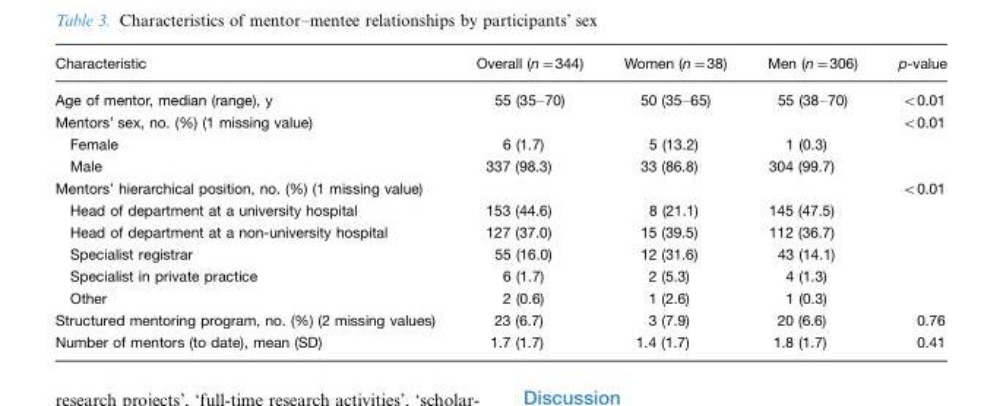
<table><thead><tr><td>Characteristic</td><td>Overall (n=344)</td><td>Women (n=38)</td><td>Men (n=306)</td><td>p-value</td></tr></thead><tbody><tr><td>Age of mentor, median (range), y</td><td>55 (35–70)</td><td>50 (35–65)</td><td>55 (38–70)</td><td>&lt;0.01</td></tr><tr><td>Mentors’ sex, no. (%) (1 missing value)</td><td></td><td></td><td></td><td>&lt;0.01</td></tr><tr><td>Female</td><td>6 (1.7)</td><td>5 (13.2)</td><td>1 (0.3)</td><td></td></tr><tr><td>Male</td><td>337 (98.3)</td><td>33 (86.8)</td><td>304 (99.7)</td><td></td></tr><tr><td>Mentors’ hierarchical position, no. (%) (1 missing value)</td><td></td><td></td><td></td><td>&lt;0.01</td></tr><tr><td>Head of department at a university hospital</td><td>153 (44.6)</td><td>8 (21.1)</td><td>145 (47.5)</td><td></td></tr><tr><td>Head of department at a non-university hospital</td><td>127 (37.0)</td><td>15 (39.5)</td><td>112 (36.7)</td><td></td></tr><tr><td>Specialist registrar</td><td>55 (16.0)</td><td>12 (31.6)</td><td>43 (14.1)</td><td></td></tr><tr><td>Specialist in private practice</td><td>6 (1.7)</td><td>2 (5.3)</td><td>4 (1.3)</td><td></td></tr><tr><td>Other</td><td>2 (0.6)</td><td>1 (2.6)</td><td>1 (0.3)</td><td></td></tr><tr><td>Structured mentoring program, no. (%) (2 missing values)</td><td>23 (6.7)</td><td>3 (7.9)</td><td>20 (6.6)</td><td>0.76</td></tr><tr><td>Number of mentors (to date), mean (SD)</td><td>1.7 (1.7)</td><td>1.4 (1.7)</td><td>1.8 (1.7)</td><td>0.41</td></tr></tbody></table>